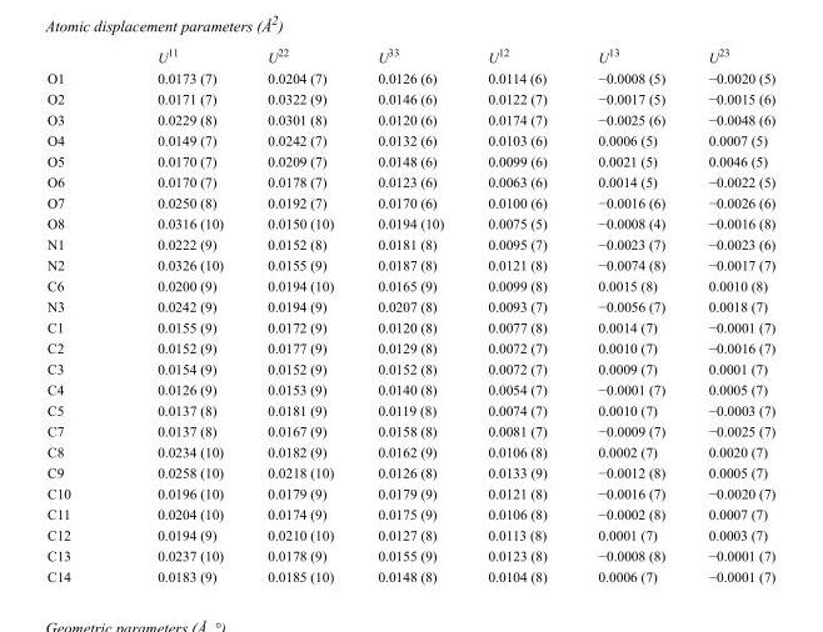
<table><thead><tr><td></td><td>U<sup>11</sup></td><td>U<sup>22</sup></td><td>U<sup>33</sup></td><td>U<sup>12</sup></td><td>U<sup>13</sup></td><td>U<sup>23</sup></td></tr></thead><tbody><tr><td>O1</td><td>0.0173 (7)</td><td>0.0204 (7)</td><td>0.0126 (6)</td><td>0.0114 (6)</td><td>−0.0008 (5)</td><td>−0.0020 (5)</td></tr><tr><td>O2</td><td>0.0171 (7)</td><td>0.0322 (9)</td><td>0.0146 (6)</td><td>0.0122 (7)</td><td>−0.0017 (5)</td><td>−0.0015 (6)</td></tr><tr><td>O3</td><td>0.0229 (8)</td><td>0.0301 (8)</td><td>0.0120 (6)</td><td>0.0174 (7)</td><td>−0.0025 (6)</td><td>−0.0048 (6)</td></tr><tr><td>O4</td><td>0.0149 (7)</td><td>0.0242 (7)</td><td>0.0132 (6)</td><td>0.0103 (6)</td><td>0.0006 (5)</td><td>0.0007 (5)</td></tr><tr><td>O5</td><td>0.0170 (7)</td><td>0.0209 (7)</td><td>0.0148 (6)</td><td>0.0099 (6)</td><td>0.0021 (5)</td><td>0.0046 (5)</td></tr><tr><td>O6</td><td>0.0170 (7)</td><td>0.0178 (7)</td><td>0.0123 (6)</td><td>0.0063 (6)</td><td>0.0014 (5)</td><td>−0.0022 (5)</td></tr><tr><td>O7</td><td>0.0250 (8)</td><td>0.0192 (7)</td><td>0.0170 (6)</td><td>0.0100 (6)</td><td>−0.0016 (6)</td><td>−0.0026 (6)</td></tr><tr><td>O8</td><td>0.0316 (10)</td><td>0.0150 (10)</td><td>0.0194 (10)</td><td>0.0075 (5)</td><td>−0.0008 (4)</td><td>−0.0016 (8)</td></tr><tr><td>N1</td><td>0.0222 (9)</td><td>0.0152 (8)</td><td>0.0181 (8)</td><td>0.0095 (7)</td><td>−0.0023 (7)</td><td>−0.0023 (6)</td></tr><tr><td>N2</td><td>0.0326 (10)</td><td>0.0155 (9)</td><td>0.0187 (8)</td><td>0.0121 (8)</td><td>−0.0074 (8)</td><td>−0.0017 (7)</td></tr><tr><td>C6</td><td>0.0200 (9)</td><td>0.0194 (10)</td><td>0.0165 (9)</td><td>0.0099 (8)</td><td>0.0015 (8)</td><td>0.0010 (8)</td></tr><tr><td>N3</td><td>0.0242 (9)</td><td>0.0194 (9)</td><td>0.0207 (8)</td><td>0.0093 (7)</td><td>−0.0056 (7)</td><td>0.0018 (7)</td></tr><tr><td>C1</td><td>0.0155 (9)</td><td>0.0172 (9)</td><td>0.0120 (8)</td><td>0.0077 (8)</td><td>0.0014 (7)</td><td>−0.0001 (7)</td></tr><tr><td>C2</td><td>0.0152 (9)</td><td>0.0177 (9)</td><td>0.0129 (8)</td><td>0.0072 (7)</td><td>0.0010 (7)</td><td>−0.0016 (7)</td></tr><tr><td>C3</td><td>0.0154 (9)</td><td>0.0152 (9)</td><td>0.0152 (8)</td><td>0.0072 (7)</td><td>0.0009 (7)</td><td>0.0001 (7)</td></tr><tr><td>C4</td><td>0.0126 (9)</td><td>0.0153 (9)</td><td>0.0140 (8)</td><td>0.0054 (7)</td><td>−0.0001 (7)</td><td>0.0005 (7)</td></tr><tr><td>C5</td><td>0.0137 (8)</td><td>0.0181 (9)</td><td>0.0119 (8)</td><td>0.0074 (7)</td><td>0.0010 (7)</td><td>−0.0003 (7)</td></tr><tr><td>C7</td><td>0.0137 (8)</td><td>0.0167 (9)</td><td>0.0158 (8)</td><td>0.0081 (7)</td><td>−0.0009 (7)</td><td>−0.0025 (7)</td></tr><tr><td>C8</td><td>0.0234 (10)</td><td>0.0182 (9)</td><td>0.0162 (9)</td><td>0.0106 (8)</td><td>0.0002 (7)</td><td>0.0020 (7)</td></tr><tr><td>C9</td><td>0.0258 (10)</td><td>0.0218 (10)</td><td>0.0126 (8)</td><td>0.0133 (9)</td><td>−0.0012 (8)</td><td>0.0005 (7)</td></tr><tr><td>C10</td><td>0.0196 (10)</td><td>0.0179 (9)</td><td>0.0179 (9)</td><td>0.0121 (8)</td><td>−0.0016 (7)</td><td>−0.0020 (7)</td></tr><tr><td>C11</td><td>0.0204 (10)</td><td>0.0174 (9)</td><td>0.0175 (9)</td><td>0.0106 (8)</td><td>−0.0002 (8)</td><td>0.0007 (7)</td></tr><tr><td>C12</td><td>0.0194 (9)</td><td>0.0210 (10)</td><td>0.0127 (8)</td><td>0.0113 (8)</td><td>0.0001 (7)</td><td>0.0003 (7)</td></tr><tr><td>C13</td><td>0.0237 (10)</td><td>0.0178 (9)</td><td>0.0155 (9)</td><td>0.0123 (8)</td><td>−0.0008 (8)</td><td>−0.0001 (7)</td></tr><tr><td>C14</td><td>0.0183 (9)</td><td>0.0185 (10)</td><td>0.0148 (8)</td><td>0.0104 (8)</td><td>0.0006 (7)</td><td>−0.0001 (7)</td></tr></tbody></table>